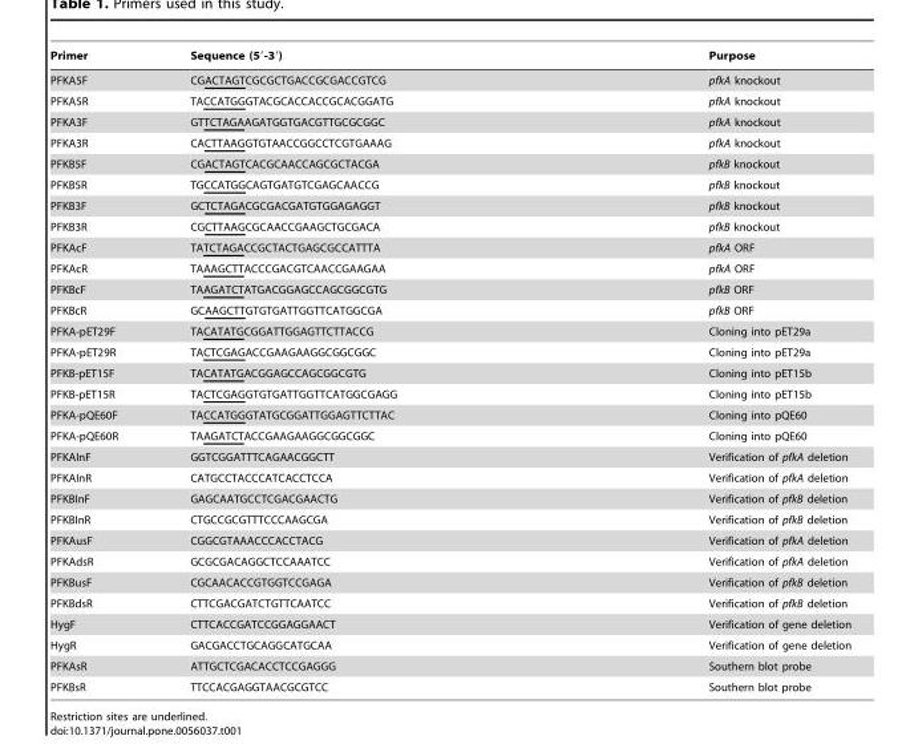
<table><thead><tr><td>Primer</td><td>Sequence (5′-3′)</td><td>Purpose</td></tr></thead><tbody><tr><td>PFKA5F</td><td>CGACTAGTCGCGCTGACCGCGACCGTCG</td><td>pfkA knockout</td></tr><tr><td>PFKA5R</td><td>TACCATGGGTACGCACCACCGCACGGATG</td><td>pfkA knockout</td></tr><tr><td>PFKA3F</td><td>GTTCTAGAAGATGGTGACGTTGCGCGGC</td><td>pfkA knockout</td></tr><tr><td>PFKA3R</td><td>CACTTAAGGTGTAACCGGCCTCGTGAAAG</td><td>pfkA knockout</td></tr><tr><td>PFKB5F</td><td>CGACTAGTCACGCAACCAGCGCTACGA</td><td>pfkB knockout</td></tr><tr><td>PFKB5R</td><td>TGCCATGGCAGTGATGTCGAGCAACCG</td><td>pfkB knockout</td></tr><tr><td>PFKB3F</td><td>GCTCTAGACGCGACGATGTGGAGAGGT</td><td>pfkB knockout</td></tr><tr><td>PFKB3R</td><td>CGCTTAAGCGCAACCGAAGCTGCGACA</td><td>pfkB knockout</td></tr><tr><td>PFKAcF</td><td>TATCTAGACCGCTACTGAGCGCCATTTA</td><td>pfkA ORF</td></tr><tr><td>PFKAcR</td><td>TAAAGCTTACCCGACGTCAACCGAAGAA</td><td>pfkA ORF</td></tr><tr><td>PFKBcF</td><td>TAAGATCTATGACGGAGCCAGCGGCGTG</td><td>pfkB ORF</td></tr><tr><td>PFKBcR</td><td>GCAAGCTTGTGTGATTGGTTCATGGCGA</td><td>pfkB ORF</td></tr><tr><td>PFKA-pET29F</td><td>TACATATGCGGATTGGAGTTCTTACCG</td><td>Cloning into pET29a</td></tr><tr><td>PFKA-pET29R</td><td>TACTCGAGACCGAAGAAGGCGGCGGC</td><td>Cloning into pET29a</td></tr><tr><td>PFKB-pET15F</td><td>TACATATGACGGAGCCAGCGGCGTG</td><td>Cloning into pET15b</td></tr><tr><td>PFKB-pET15R</td><td>TACTCGAGGTGTGATTGGTTCATGGCGAGG</td><td>Cloning into pET15b</td></tr><tr><td>PFKA-pQE60F</td><td>TACCATGGGTATGCGGATTGGAGTTCTTAC</td><td>Cloning into pQE60</td></tr><tr><td>PFKA-pQE60R</td><td>TAAGATCTACCGAAGAAGGCGGCGGC</td><td>Cloning into pQE60</td></tr><tr><td>PFKAInF</td><td>GGTCGGATTTCAGAACGGCTT</td><td>Verification of pfkA deletion</td></tr><tr><td>PFKAInR</td><td>CATGCCTACCCATCACCTCCA</td><td>Verification of pfkA deletion</td></tr><tr><td>PFKBInF</td><td>GAGCAATGCCTCGACGAACTG</td><td>Verification of pfkB deletion</td></tr><tr><td>PFKBInR</td><td>CTGCCGCGTTTCCCAAGCGA</td><td>Verification of pfkB deletion</td></tr><tr><td>PFKAusF</td><td>CGGCGTAAACCCACCTACG</td><td>Verification of pfkA deletion</td></tr><tr><td>PFKAdsR</td><td>GCGCGACAGGCTCCAAATCC</td><td>Verification of pfkA deletion</td></tr><tr><td>PFKBusF</td><td>CGCAACACCGTGGTCCGAGA</td><td>Verification of pfkB deletion</td></tr><tr><td>PFKBdsR</td><td>CTTCGACGATCTGTTCAATCC</td><td>Verification of pfkB deletion</td></tr><tr><td>HygF</td><td>CTTCACCGATCCGGAGGAACT</td><td>Verification of gene deletion</td></tr><tr><td>HygR</td><td>GACGACCTGCAGGCATGCAA</td><td>Verification of gene deletion</td></tr><tr><td>PFKAsR</td><td>ATTGCTCGACACCTCCGAGGG</td><td>Southern blot probe</td></tr><tr><td>PFKBsR</td><td>TTCCACGAGGTAACGCGTCC</td><td>Southern blot probe</td></tr></tbody></table>